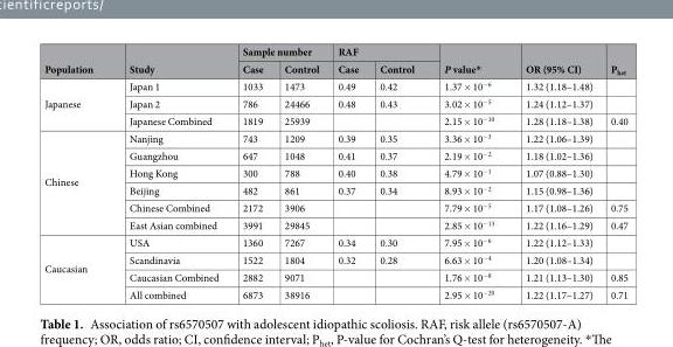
<table><thead><tr><td rowspan="2">Population</td><td rowspan="2">Study</td><td colspan="2">Sample number</td><td colspan="2">RAF</td><td rowspan="2">P value*</td><td rowspan="2">OR (95% CI)</td><td rowspan="2">P<sub>het</sub></td></tr><tr><td>Case</td><td>Control</td><td>Case</td><td>Control</td></tr></thead><tbody><tr><td rowspan="3">Japanese</td><td>Japan 1</td><td>1033</td><td>1473</td><td>0.49</td><td>0.42</td><td>1.37 × 10<sup>−6</sup></td><td>1.32 (1.18–1.48)</td><td></td></tr><tr><td>Japan 2</td><td>786</td><td>24466</td><td>0.48</td><td>0.43</td><td>3.02 × 10<sup>−5</sup></td><td>1.24 (1.12–1.37)</td><td></td></tr><tr><td>Japanese Combined</td><td>1819</td><td>25939</td><td></td><td></td><td>2.15 × 10<sup>−10</sup></td><td>1.28 (1.18–1.38)</td><td>0.40</td></tr><tr><td rowspan="6">Chinese</td><td>Nanjing</td><td>743</td><td>1209</td><td>0.39</td><td>0.35</td><td>3.36 × 10<sup>−3</sup></td><td>1.22 (1.06–1.39)</td><td></td></tr><tr><td>Guangzhou</td><td>647</td><td>1048</td><td>0.41</td><td>0.37</td><td>2.19 × 10<sup>−2</sup></td><td>1.18 (1.02–1.36)</td><td></td></tr><tr><td>Hong Kong</td><td>300</td><td>788</td><td>0.40</td><td>0.38</td><td>4.79 × 10<sup>−1</sup></td><td>1.07 (0.88–1.30)</td><td></td></tr><tr><td>Beijing</td><td>482</td><td>861</td><td>0.37</td><td>0.34</td><td>8.93 × 10<sup>−2</sup></td><td>1.15 (0.98–1.36)</td><td></td></tr><tr><td>Chinese Combined</td><td>2172</td><td>3906</td><td></td><td></td><td>7.79 × 10<sup>−5</sup></td><td>1.17 (1.08–1.26)</td><td>0.75</td></tr><tr><td>East Asian combined</td><td>3991</td><td>29845</td><td></td><td></td><td>2.85 × 10<sup>−13</sup></td><td>1.22 (1.16–1.29)</td><td>0.47</td></tr><tr><td rowspan="4">Caucasian</td><td>USA</td><td>1360</td><td>7267</td><td>0.34</td><td>0.30</td><td>7.95 × 10<sup>−6</sup></td><td>1.22 (1.12–1.33)</td><td></td></tr><tr><td>Scandinavia</td><td>1522</td><td>1804</td><td>0.32</td><td>0.28</td><td>6.63 × 10<sup>−4</sup></td><td>1.20 (1.08–1.34)</td><td></td></tr><tr><td>Caucasian Combined</td><td>2882</td><td>9071</td><td></td><td></td><td>1.76 × 10<sup>−8</sup></td><td>1.21 (1.13–1.30)</td><td>0.85</td></tr><tr><td>All combined</td><td>6873</td><td>38916</td><td></td><td></td><td>2.95 × 10<sup>−20</sup></td><td>1.22 (1.17–1.27)</td><td>0.71</td></tr></tbody></table>